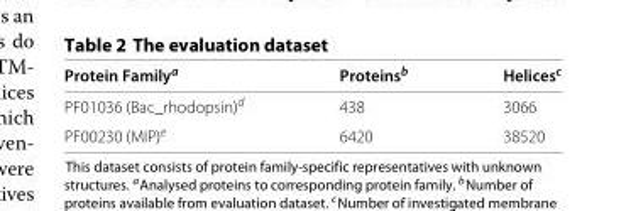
<table><thead><tr><td>Protein Family<sup>a</sup></td><td>Proteins<sup>b</sup></td><td>Helices<sup>c</sup></td></tr></thead><tbody><tr><td>PF01036 (Bac_rhodopsin)<sup>d</sup></td><td>438</td><td>3066</td></tr><tr><td>PF00230 (MIP)<sup>e</sup></td><td>6420</td><td>38520</td></tr></tbody></table>